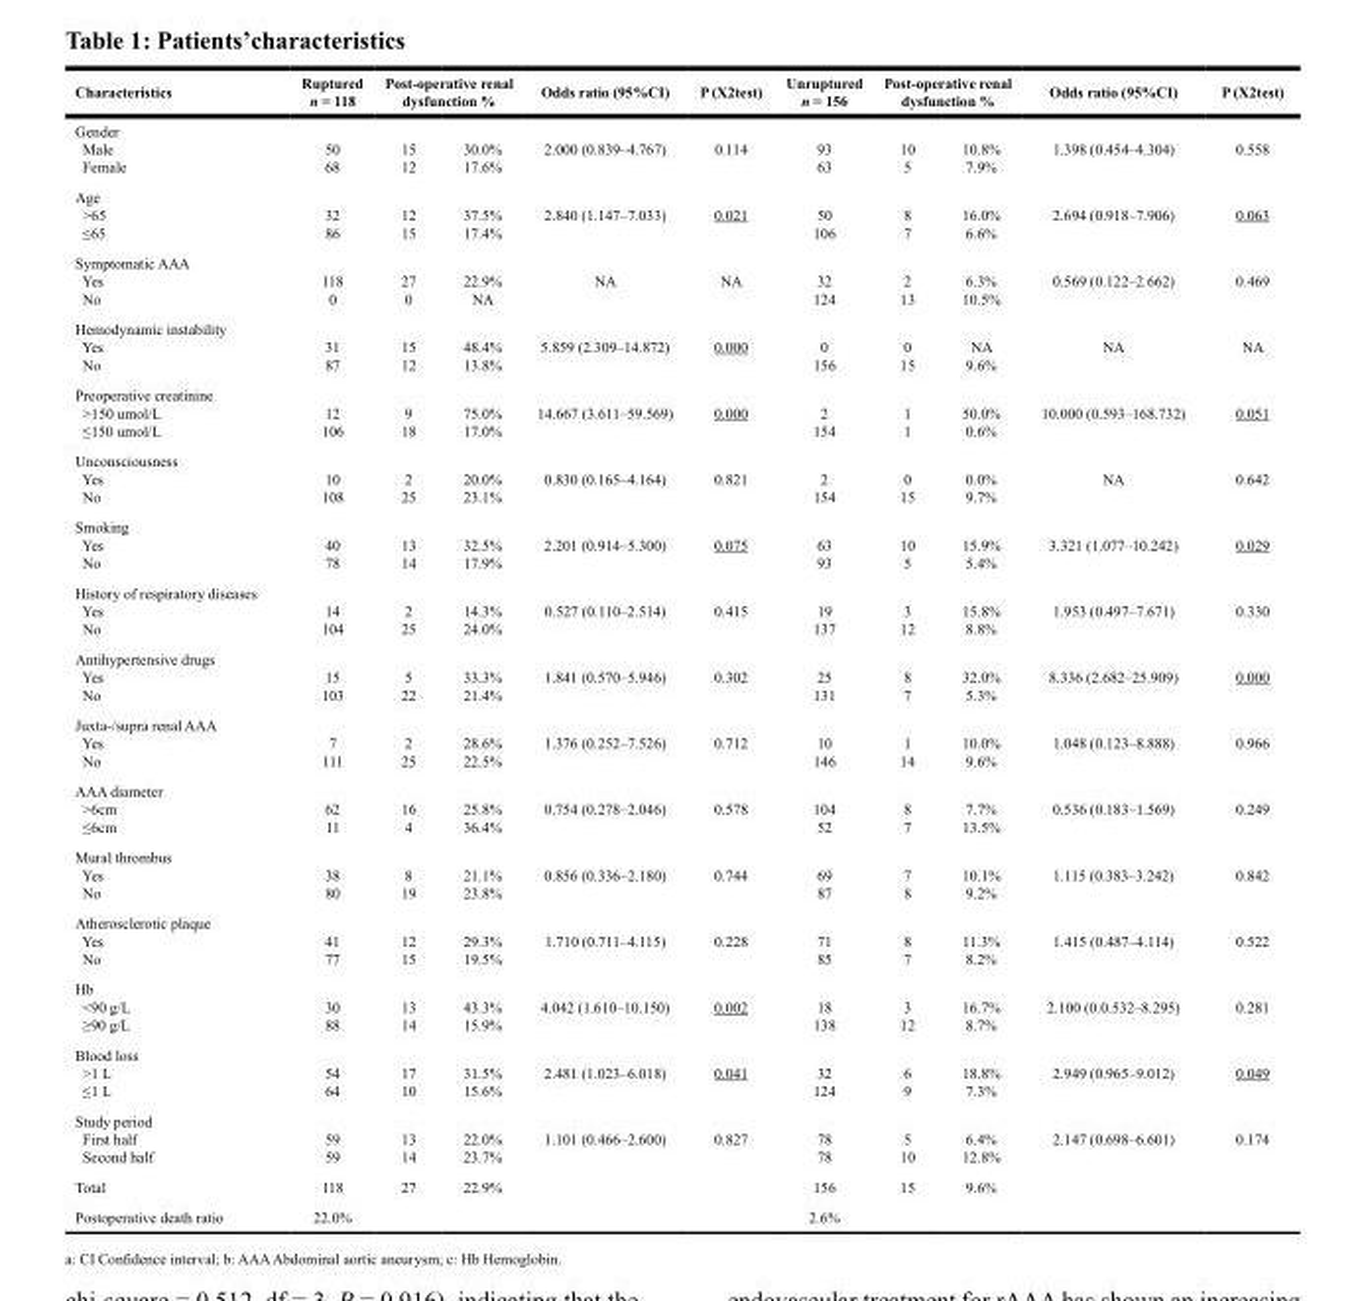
<table><thead><tr><td rowspan="2">Characteristics Gender Male Female</td><td rowspan="2">Ruptured n = 118 50 68</td><td colspan="2">Post-operative renal dysfunction %</td><td rowspan="2">Odds ratio (95%CI) 2.000 (0.839–4.767)</td><td rowspan="2">P (X2test) 0.114</td><td rowspan="2">Unruptured n = 156 93 63</td><td colspan="2">Post-operative renal dysfunction %</td><td rowspan="2">Odds ratio (95%CI) 1.398 (0.454–4.304)</td><td rowspan="2">P (X2test) 0.558</td></tr><tr><td>15 12</td><td>30.0% 17.6%</td><td>10 5</td><td>10.8% 7.9%</td></tr></thead><tbody><tr><td>Age &gt;65 ≤65</td><td>32 86</td><td>12 15</td><td>37.5% 17.4%</td><td>2.840 (1.147–7.033)</td><td>0.021</td><td>50 106</td><td>8 7</td><td>16.0% 6.6%</td><td>2.694 (0.918–7.906)</td><td>0.063</td></tr><tr><td>Symptomatic AAA Yes No</td><td>118 0</td><td>27 0</td><td>22.9% NA</td><td>NA</td><td>NA</td><td>32 124</td><td>2 13</td><td>6.3% 10.5%</td><td>0.569 (0.122–2.662)</td><td>0.469</td></tr><tr><td>Hemodynamic instability Yes No</td><td>31 87</td><td>15 12</td><td>48.4% 13.8%</td><td>5.859 (2.309–14.872)</td><td>0.000</td><td>0 156</td><td>0 15</td><td>NA 9.6%</td><td>NA</td><td>NA</td></tr><tr><td>Preoperative creatinine &gt;150 umol/L ≤150 umol/L</td><td>12 106</td><td>9 18</td><td>75.0% 17.0%</td><td>14.667 (3.611–59.569)</td><td>0.000</td><td>2 154</td><td>1 1</td><td>50.0% 0.6%</td><td>10.000 (0.593–168.732)</td><td>0.051</td></tr><tr><td>Unconsciousness Yes No</td><td>10 108</td><td>2 25</td><td>20.0% 23.1%</td><td>0.830 (0.165–4.164)</td><td>0.821</td><td>2 154</td><td>0 15</td><td>0.0% 9.7%</td><td>NA</td><td>0.642</td></tr><tr><td>Smoking Yes No</td><td>40 78</td><td>13 14</td><td>32.5% 17.9%</td><td>2.201 (0.914–5.300)</td><td>0.075</td><td>63 93</td><td>10 5</td><td>15.9% 5.4%</td><td>3.321 (1.077–10.242)</td><td>0.029</td></tr><tr><td>History of respiratory diseases Yes No</td><td>14 104</td><td>2 25</td><td>14.3% 24.0%</td><td>0.527 (0.110–2.514)</td><td>0.415</td><td>19 137</td><td>3 12</td><td>15.8% 8.8%</td><td>1.953 (0.497–7.671)</td><td>0.330</td></tr><tr><td>Antihypertensive drugs Yes No</td><td>15 103</td><td>5 22</td><td>33.3% 21.4%</td><td>1.841 (0.570–5.946)</td><td>0.302</td><td>25 131</td><td>8 7</td><td>32.0% 5.3%</td><td>8.336 (2.682–25.909)</td><td>0.000</td></tr><tr><td>Juxta-/supra renal AAA Yes No</td><td>7 111</td><td>2 25</td><td>28.6% 22.5%</td><td>1.376 (0.252–7.526)</td><td>0.712</td><td>10 146</td><td>1 14</td><td>10.0% 9.6%</td><td>1.048 (0.123–8.888)</td><td>0.966</td></tr><tr><td>AAA diameter &gt;6cm ≤6cm</td><td>62 11</td><td>16 4</td><td>25.8% 36.4%</td><td>0.754 (0.278–2.046)</td><td>0.578</td><td>104 52</td><td>8 7</td><td>7.7% 13.5%</td><td>0.536 (0.183–1.569)</td><td>0.249</td></tr><tr><td>Mural thrombus Yes No</td><td>38 80</td><td>8 19</td><td>21.1% 23.8%</td><td>0.856 (0.336–2.180)</td><td>0.744</td><td>69 87</td><td>7 8</td><td>10.1% 9.2%</td><td>1.115 (0.383–3.242)</td><td>0.842</td></tr><tr><td>Atherosclerotic plaque Yes No</td><td>41 77</td><td>12 15</td><td>29.3% 19.5%</td><td>1.710 (0.711–4.115)</td><td>0.228</td><td>71 85</td><td>8 7</td><td>11.3% 8.2%</td><td>1.415 (0.487–4.114)</td><td>0.522</td></tr><tr><td>Hb &lt;90 g/L ≥90 g/L</td><td>30 88</td><td>13 14</td><td>43.3% 15.9%</td><td>4.042 (1.610–10.150)</td><td>0.002</td><td>18 138</td><td>3 12</td><td>16.7% 8.7%</td><td>2.100 (0.0.532–8.295)</td><td>0.281</td></tr><tr><td>Blood loss &gt;1 L ≤1 L</td><td>54 64</td><td>17 10</td><td>31.5% 15.6%</td><td>2.481 (1.023–6.018)</td><td>0.041</td><td>32 124</td><td>6 9</td><td>18.8% 7.3%</td><td>2.949 (0.965–9.012)</td><td>0.049</td></tr><tr><td>Study period First half Second half</td><td>59 59</td><td>13 14</td><td>22.0% 23.7%</td><td>1.101 (0.466–2.600)</td><td>0.827</td><td>78 78</td><td>5 10</td><td>6.4% 12.8%</td><td>2.147 (0.698–6.601)</td><td>0.174</td></tr><tr><td>Total</td><td>118</td><td>27</td><td>22.9%</td><td></td><td></td><td>156</td><td>15</td><td>9.6%</td><td></td><td></td></tr><tr><td>Postoperative death ratio</td><td>22.0%</td><td></td><td></td><td></td><td></td><td>2.6%</td><td></td><td></td><td></td><td></td></tr></tbody></table>